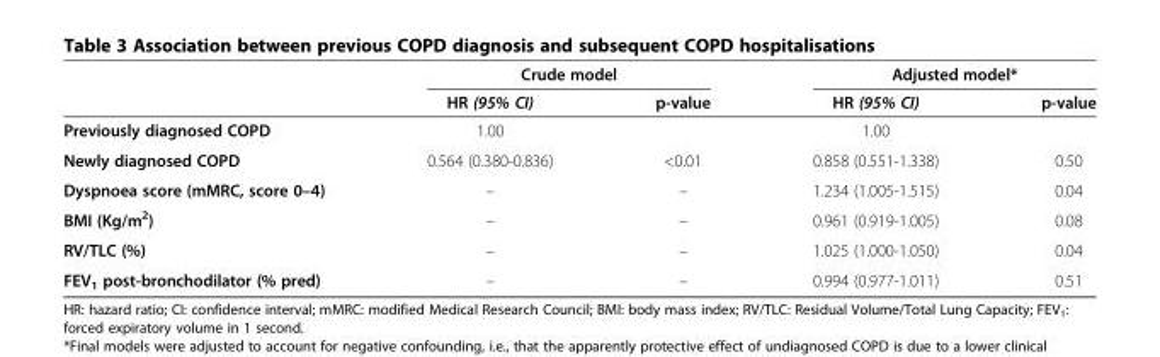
<table><thead><tr><td rowspan="2"></td><td colspan="2">Crude model</td><td colspan="2">Adjusted model*</td></tr><tr><td>HR (95% CI)</td><td>p-value</td><td>HR (95% CI)</td><td>p-value</td></tr></thead><tbody><tr><td>Previously diagnosed COPD</td><td>1.00</td><td></td><td>1.00</td><td></td></tr><tr><td>Newly diagnosed COPD</td><td>0.564 (0.380-0.836)</td><td>&lt;0.01</td><td>0.858 (0.551-1.338)</td><td>0.50</td></tr><tr><td>Dyspnoea score (mMRC, score 0–4)</td><td>–</td><td>–</td><td>1.234 (1.005-1.515)</td><td>0.04</td></tr><tr><td>BMI (Kg/m<sup>2</sup>)</td><td>–</td><td>–</td><td>0.961 (0.919-1.005)</td><td>0.08</td></tr><tr><td>RV/TLC (%)</td><td>–</td><td>–</td><td>1.025 (1.000-1.050)</td><td>0.04</td></tr><tr><td>FEV<sub>1</sub> post-bronchodilator (% pred)</td><td>–</td><td>–</td><td>0.994 (0.977-1.011)</td><td>0.51</td></tr></tbody></table>